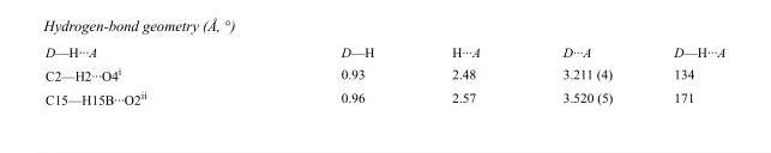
<table><tbody><tr><td>D—H···A</td><td>D—H</td><td>H···A</td><td>D···A</td><td>D—H···A</td></tr><tr><td>C2—H2···O4<sup>i</sup></td><td>0.93</td><td>2.48</td><td>3.211 (4)</td><td>134</td></tr><tr><td>C15—H15B···O2<sup>ii</sup></td><td>0.96</td><td>2.57</td><td>3.520 (5)</td><td>171</td></tr></tbody></table>